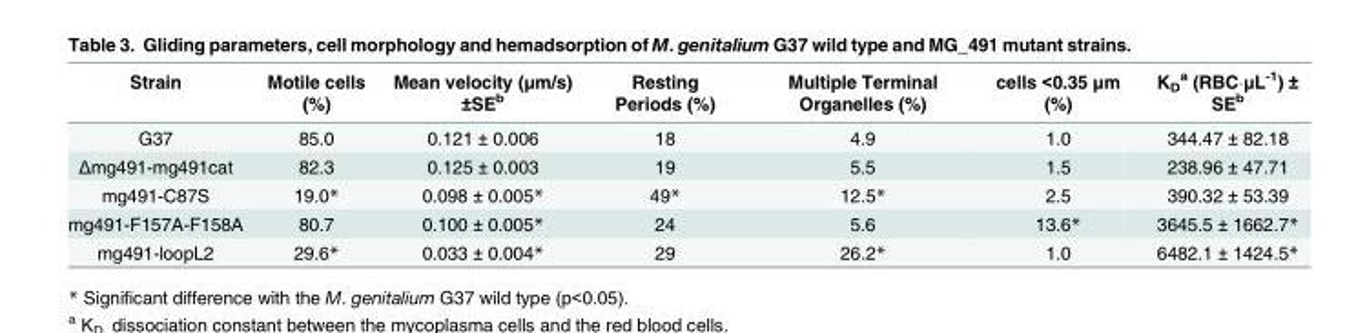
<table><thead><tr><td>Strain</td><td>Motile cells (%)</td><td>Mean velocity (μm/s) ±SE<sup>b</sup></td><td>Resting Periods (%)</td><td>Multiple Terminal Organelles (%)</td><td>cells &lt;0.35 μm (%)</td><td>K<sub>D</sub> <sup>a</sup> (RBC·μL<sup>-1</sup>) ± SE<sup>b</sup></td></tr></thead><tbody><tr><td>G37</td><td>85.0</td><td>0.121 ± 0.006</td><td>18</td><td>4.9</td><td>1.0</td><td>344.47 ± 82.18</td></tr><tr><td>Δmg491-mg491cat</td><td>82.3</td><td>0.125 ± 0.003</td><td>19</td><td>5.5</td><td>1.5</td><td>238.96 ± 47.71</td></tr><tr><td>mg491-C87S</td><td>19.0*</td><td>0.098 ± 0.005*</td><td>49*</td><td>12.5*</td><td>2.5</td><td>390.32 ± 53.39</td></tr><tr><td>mg491-F157A-F158A</td><td>80.7</td><td>0.100 ± 0.005*</td><td>24</td><td>5.6</td><td>13.6*</td><td>3645.5 ± 1662.7*</td></tr><tr><td>mg491-loopL2</td><td>29.6*</td><td>0.033 ± 0.004*</td><td>29</td><td>26.2*</td><td>1.0</td><td>6482.1 ± 1424.5*</td></tr></tbody></table>